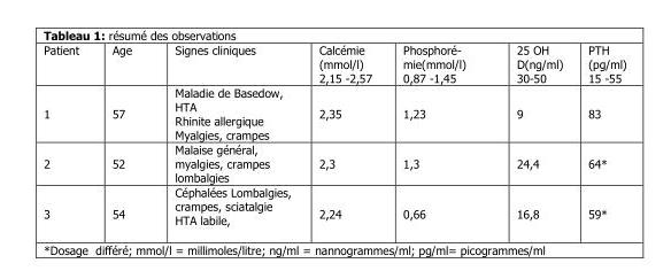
<table><thead><tr><td>Patient</td><td>Age</td><td>Signes cliniques</td><td>Calcémie (mmol/l) 2,15 -2,57</td><td>Phosphoré- mie(mmol/l) 0,87 -1,45</td><td>25 OH D(ng/ml) 30-50</td><td>PTH (pg/ml) 15 -55</td></tr></thead><tbody><tr><td>1</td><td>57</td><td>Maladie de Basedow, HTA Rhinite allergique Myalgies, crampes</td><td>2,35</td><td>1,23</td><td>9</td><td>83</td></tr><tr><td>2</td><td>52</td><td>Malaise général, myalgies, crampes lombalgies</td><td>2,3</td><td>1,3</td><td>24,4</td><td>64*</td></tr><tr><td>3</td><td>54</td><td>Céphalées Lombalgies, crampes, sciatalgie HTA labile,</td><td>2,24</td><td>0,66</td><td>16,8</td><td>59*</td></tr></tbody></table>